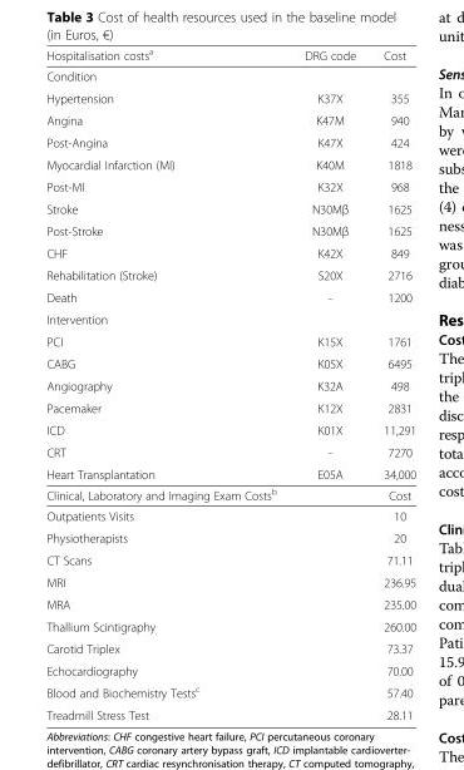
<table><thead><tr><td>Hospitalisation costs<sup>a</sup></td><td>DRG code</td><td>Cost</td></tr></thead><tbody><tr><td colspan="3">Condition</td></tr><tr><td>Hypertension</td><td>K37X</td><td>355</td></tr><tr><td>Angina</td><td>K47M</td><td>940</td></tr><tr><td>Post-Angina</td><td>K47X</td><td>424</td></tr><tr><td>Myocardial Infarction (MI)</td><td>K40M</td><td>1818</td></tr><tr><td>Post-MI</td><td>K32X</td><td>968</td></tr><tr><td>Stroke</td><td>N30Mβ</td><td>1625</td></tr><tr><td>Post-Stroke</td><td>N30Mβ</td><td>1625</td></tr><tr><td>CHF</td><td>Κ42Χ</td><td>849</td></tr><tr><td>Rehabilitation (Stroke)</td><td>S20Χ</td><td>2716</td></tr><tr><td>Death</td><td>-</td><td>1200</td></tr><tr><td colspan="3">Intervention</td></tr><tr><td>PCI</td><td>Κ15Χ</td><td>1761</td></tr><tr><td>CABG</td><td>Κ05Χ</td><td>6495</td></tr><tr><td>Angiography</td><td>Κ32Α</td><td>498</td></tr><tr><td>Pacemaker</td><td>Κ12Χ</td><td>2831</td></tr><tr><td>ICD</td><td>Κ01Χ</td><td>11,291</td></tr><tr><td>CRT</td><td>-</td><td>7270</td></tr><tr><td>Heart Transplantation</td><td>Ε05Α</td><td>34,000</td></tr><tr><td>Clinical, Laboratory and Imaging Exam Costs<sup>b</sup></td><td></td><td>Cost</td></tr><tr><td>Outpatients Visits</td><td></td><td>10</td></tr><tr><td>Physiotherapists</td><td></td><td>20</td></tr><tr><td>CT Scans</td><td></td><td>71.11</td></tr><tr><td>MRI</td><td></td><td>236.95</td></tr><tr><td>MRA</td><td></td><td>235.00</td></tr><tr><td>Thallium Scintigraphy</td><td></td><td>260.00</td></tr><tr><td>Carotid Triplex</td><td></td><td>73.37</td></tr><tr><td>Echocardiography</td><td></td><td>70.00</td></tr><tr><td>Blood and Biochemistry Tests<sup>c</sup></td><td></td><td>57.40</td></tr><tr><td>Treadmill Stress Test</td><td></td><td>28.11</td></tr></tbody></table>